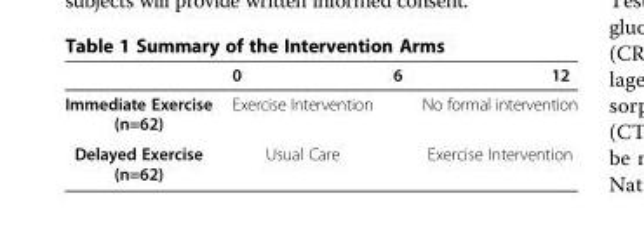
<table><thead><tr><td></td><td>0</td><td>6</td><td>12</td></tr></thead><tbody><tr><td>Immediate Exercise (n=62)</td><td>Exercise Intervention</td><td></td><td>No formal intervention</td></tr><tr><td>Delayed Exercise (n=62)</td><td>Usual Care</td><td></td><td>Exercise Intervention</td></tr></tbody></table>